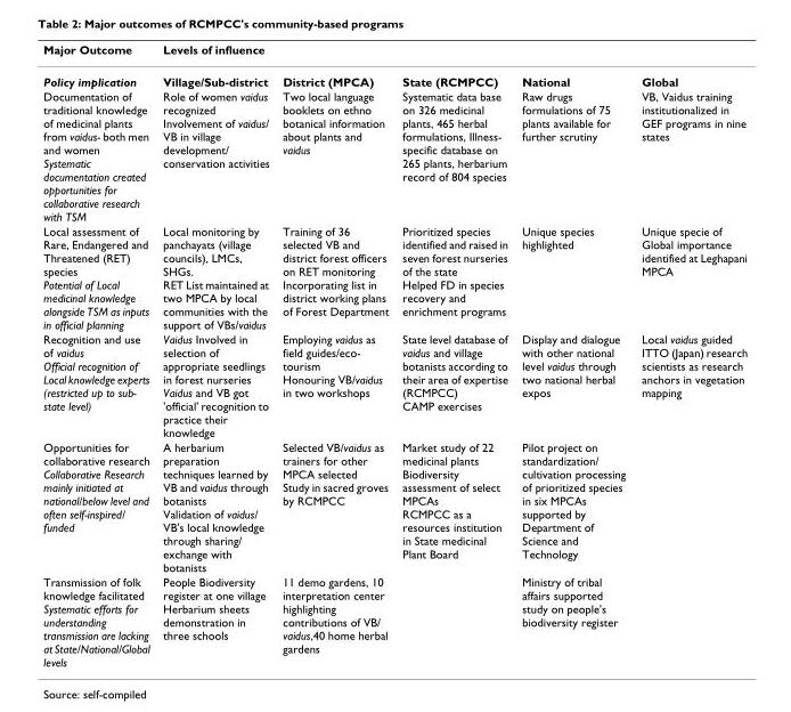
<table><thead><tr><td rowspan="2">Major Outcome Policy implication</td><td colspan="5">Levels of influence</td></tr><tr><td>Village/Sub-district</td><td>District (MPCA)</td><td>State (RCMPCC)</td><td>National</td><td>Global</td></tr></thead><tbody><tr><td>Documentation of traditional knowledge of medicinal plants from vaidus- both men and women Systematic documentation created opportunities for collaborative research with TSM</td><td>Role of women vaidus recognized Involvement of vaidus/ VB in village development/ conservation activities</td><td>Two local language booklets on ethno botanical information about plants and vaidus</td><td>Systematic data base on 326 medicinal plants, 465 herbal formulations, Illness- specific database on 265 plants, herbarium record of 804 species</td><td>Raw drugs formulations of 75 plants available for further scrutiny</td><td>VB, Vaidus training institutionalized in GEF programs in nine states</td></tr><tr><td>Local assessment of Rare, Endangered and Threatened (RET) species Potential of Local medicinal knowledge alongside TSM as inputs in official planning</td><td>Local monitoring by panchayats (village councils), LMCs, SHGs. RET List maintained at two MPCA by local communities with the support of VBs/vaidus</td><td>Training of 36 selected VB and district forest officers on RET monitoring Incorporating list in district working plans of Forest Department</td><td>Prioritized species identified and raised in seven forest nurseries of the state Helped FD in species recovery and enrichment programs</td><td>Unique species highlighted</td><td>Unique specie of Global importance identified at Leghapani MPCA</td></tr><tr><td>Recognition and use of vaidus Official recognition of Local knowledge experts (restricted up to sub- state level)</td><td>Vaidus Involved in selection of appropriate seedlings in forest nurseries Vaidus and VB got &#x27;official&#x27; recognition to practice their knowledge</td><td>Employing vaidus as field guides/eco- tourism Honouring VB/vaidus in two workshops</td><td>State level database of vaidus and village botanists according to their area of expertise (RCMPCC) CAMP exercises</td><td>Display and dialogue with other national level vaidus through two national herbal expos</td><td>Local vaidus guided ITTO (Japan) research scientists as research anchors in vegetation mapping</td></tr><tr><td>Opportunities for collaborative research Collaborative Research mainly initiated at national/below level and often self-inspired/ funded</td><td>A herbarium preparation techniques learned by VB and vaidus through botanists Validation of vaidus/ VB&#x27;s local knowledge through sharing/ exchange with botanists</td><td>Selected VB/vaidus as trainers for other MPCA selected Study in sacred groves by RCMPCC</td><td>Market study of 22 medicinal plants Biodiversity assessment of select MPCAs RCMPCC as a resources institution in State medicinal Plant Board</td><td>Pilot project on standardization/ cultivation processing of prioritized species in six MPCAs supported by Department of Science and Technology</td><td></td></tr><tr><td>Transmission of folk knowledge facilitated Systematic efforts for understanding transmission are lacking at State/National/Global levels</td><td>People Biodiversity register at one village Herbarium sheets demonstration in three schools</td><td>11 demo gardens, 10 interpretation center highlighting contributions of VB/ vaidus,40 home herbal gardens</td><td></td><td>Ministry of tribal affairs supported study on people&#x27;s biodiversity register</td><td></td></tr></tbody></table>